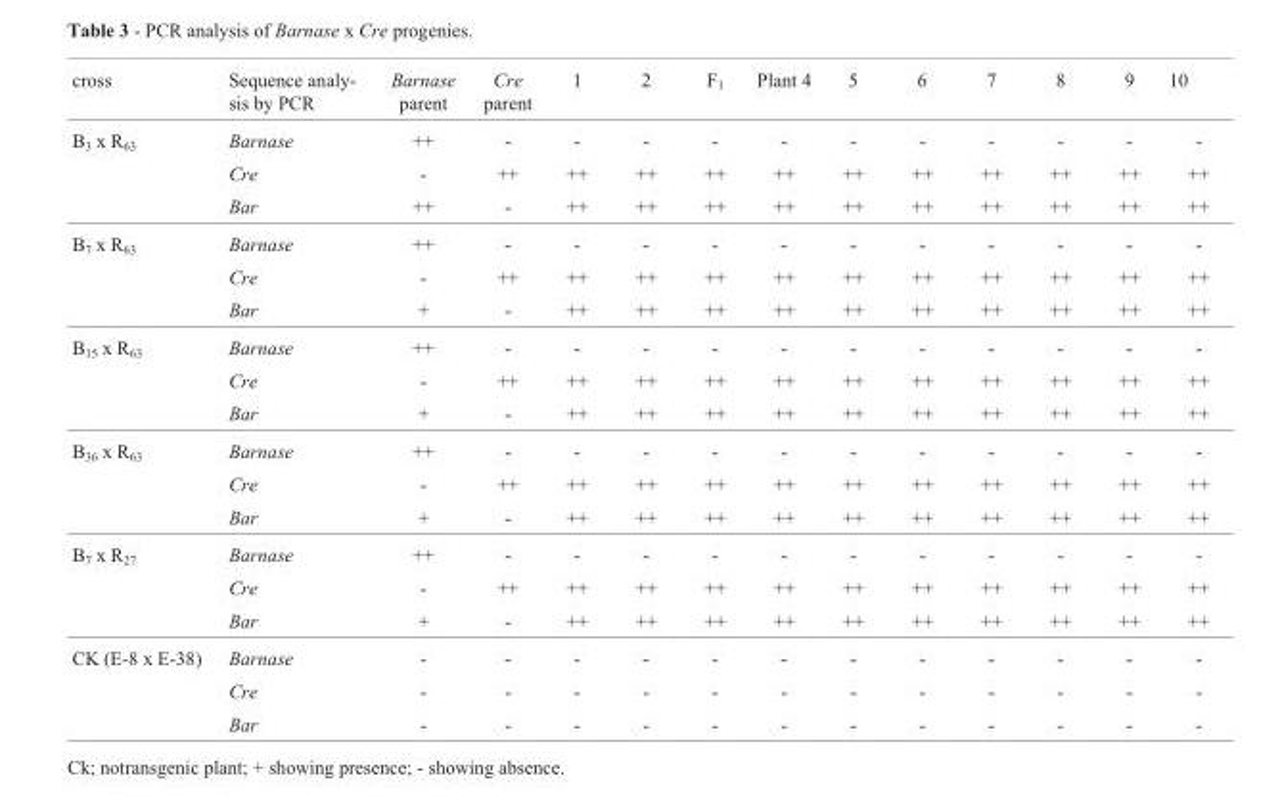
<table><thead><tr><td>cross</td><td>Sequence analy- sis by PCR</td><td>Barnase parent</td><td>Cre parent</td><td>1</td><td>2</td><td>F<sub>1</sub></td><td>Plant 4</td><td>5</td><td>6</td><td>7</td><td>8</td><td>9</td><td>10</td></tr></thead><tbody><tr><td rowspan="3">B<sub>3</sub> x R<sub>63</sub></td><td>Barnase</td><td>++</td><td>-</td><td>-</td><td>-</td><td>-</td><td>-</td><td>-</td><td>-</td><td>-</td><td>-</td><td>-</td><td>-</td></tr><tr><td>Cre</td><td>-</td><td>++</td><td>++</td><td>++</td><td>++</td><td>++</td><td>++</td><td>++</td><td>++</td><td>++</td><td>++</td><td>++</td></tr><tr><td>Bar</td><td>++</td><td>-</td><td>++</td><td>++</td><td>++</td><td>++</td><td>++</td><td>++</td><td>++</td><td>++</td><td>++</td><td>++</td></tr><tr><td rowspan="3">B<sub>7</sub> x R<sub>63</sub></td><td>Barnase</td><td>++</td><td>-</td><td>-</td><td>-</td><td>-</td><td>-</td><td>-</td><td>-</td><td>-</td><td>-</td><td>-</td><td>-</td></tr><tr><td>Cre</td><td>-</td><td>++</td><td>++</td><td>++</td><td>++</td><td>++</td><td>++</td><td>++</td><td>++</td><td>++</td><td>++</td><td>++</td></tr><tr><td>Bar</td><td>+</td><td>-</td><td>++</td><td>++</td><td>++</td><td>++</td><td>++</td><td>++</td><td>++</td><td>++</td><td>++</td><td>++</td></tr><tr><td rowspan="3">B<sub>15</sub> x R<sub>63</sub></td><td>Barnase</td><td>++</td><td>-</td><td>-</td><td>-</td><td>-</td><td>-</td><td>-</td><td>-</td><td>-</td><td>-</td><td>-</td><td>-</td></tr><tr><td>Cre</td><td>-</td><td>++</td><td>++</td><td>++</td><td>++</td><td>++</td><td>++</td><td>++</td><td>++</td><td>++</td><td>++</td><td>++</td></tr><tr><td>Bar</td><td>+</td><td>-</td><td>++</td><td>++</td><td>++</td><td>++</td><td>++</td><td>++</td><td>++</td><td>++</td><td>++</td><td>++</td></tr><tr><td rowspan="3">B<sub>36</sub> x R<sub>63</sub></td><td>Barnase</td><td>++</td><td>-</td><td>-</td><td>-</td><td>-</td><td>-</td><td>-</td><td>-</td><td>-</td><td>-</td><td>-</td><td>-</td></tr><tr><td>Cre</td><td>-</td><td>++</td><td>++</td><td>++</td><td>++</td><td>++</td><td>++</td><td>++</td><td>++</td><td>++</td><td>++</td><td>++</td></tr><tr><td>Bar</td><td>+</td><td>-</td><td>++</td><td>++</td><td>++</td><td>++</td><td>++</td><td>++</td><td>++</td><td>++</td><td>++</td><td>++</td></tr><tr><td rowspan="3">B<sub>7</sub> x R<sub>27</sub></td><td>Barnase</td><td>++</td><td>-</td><td>-</td><td>-</td><td>-</td><td>-</td><td>-</td><td>-</td><td>-</td><td>-</td><td>-</td><td>-</td></tr><tr><td>Cre</td><td>-</td><td>++</td><td>++</td><td>++</td><td>++</td><td>++</td><td>++</td><td>++</td><td>++</td><td>++</td><td>++</td><td>++</td></tr><tr><td>Bar</td><td>+</td><td>-</td><td>++</td><td>++</td><td>++</td><td>++</td><td>++</td><td>++</td><td>++</td><td>++</td><td>++</td><td>++</td></tr><tr><td rowspan="3">CK (E-8 x E-38)</td><td>Barnase</td><td>-</td><td>-</td><td>-</td><td>-</td><td>-</td><td>-</td><td>-</td><td>-</td><td>-</td><td>-</td><td>-</td><td>-</td></tr><tr><td>Cre</td><td>-</td><td>-</td><td>-</td><td>-</td><td>-</td><td>-</td><td>-</td><td>-</td><td>-</td><td>-</td><td>-</td><td>-</td></tr><tr><td>Bar</td><td>-</td><td>-</td><td>-</td><td>-</td><td>-</td><td>-</td><td>-</td><td>-</td><td>-</td><td>-</td><td>-</td><td>-</td></tr></tbody></table>